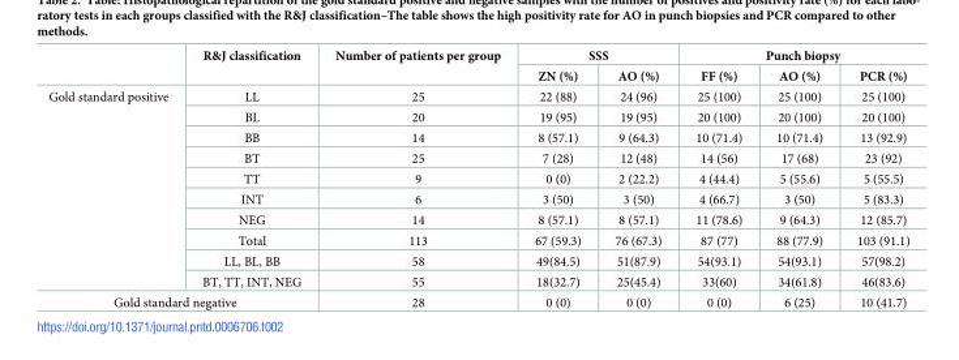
<table><thead><tr><td rowspan="2"></td><td rowspan="2">R&amp;J classification</td><td rowspan="2">Number of patients per group</td><td colspan="2">SSS</td><td colspan="3">Punch biopsy</td></tr><tr><td>ZN (%)</td><td>AO (%)</td><td>FF (%)</td><td>AO (%)</td><td>PCR (%)</td></tr></thead><tbody><tr><td rowspan="10">Gold standard positive</td><td>LL</td><td>25</td><td>22 (88)</td><td>24 (96)</td><td>25 (100)</td><td>25 (100)</td><td>25 (100)</td></tr><tr><td>BL</td><td>20</td><td>19 (95)</td><td>19 (95)</td><td>20 (100)</td><td>20 (100)</td><td>20 (100)</td></tr><tr><td>BB</td><td>14</td><td>8 (57.1)</td><td>9 (64.3)</td><td>10 (71.4)</td><td>10 (71.4)</td><td>13 (92.9)</td></tr><tr><td>BT</td><td>25</td><td>7 (28)</td><td>12 (48)</td><td>14 (56)</td><td>17 (68)</td><td>23 (92)</td></tr><tr><td>TT</td><td>9</td><td>0 (0)</td><td>2 (22.2)</td><td>4 (44.4)</td><td>5 (55.6)</td><td>5 (55.5)</td></tr><tr><td>INT</td><td>6</td><td>3 (50)</td><td>3 (50)</td><td>4 (66.7)</td><td>3 (50)</td><td>5 (83.3)</td></tr><tr><td>NEG</td><td>14</td><td>8 (57.1)</td><td>8 (57.1)</td><td>11 (78.6)</td><td>9 (64.3)</td><td>12 (85.7)</td></tr><tr><td>Total</td><td>113</td><td>67 (59.3)</td><td>76 (67.3)</td><td>87 (77)</td><td>88 (77.9)</td><td>103 (91.1)</td></tr><tr><td>LL, BL, BB</td><td>58</td><td>49(84.5)</td><td>51(87.9)</td><td>54(93.1)</td><td>54(93.1)</td><td>57(98.2)</td></tr><tr><td>BT, TT, INT, NEG</td><td>55</td><td>18(32.7)</td><td>25(45.4)</td><td>33(60)</td><td>34(61.8)</td><td>46(83.6)</td></tr><tr><td colspan="2">Gold standard negative</td><td>28</td><td>0 (0)</td><td>0 (0)</td><td>0 (0)</td><td>6 (25)</td><td>10 (41.7)</td></tr></tbody></table>